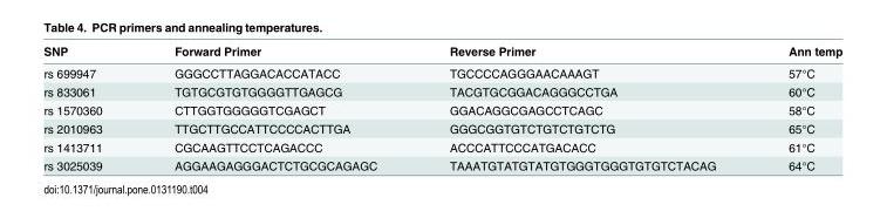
<table><thead><tr><td>SNP</td><td>Forward Primer</td><td>Reverse Primer</td><td>Ann temp</td></tr></thead><tbody><tr><td>rs 699947</td><td>GGGCCTTAGGACACCATACC</td><td>TGCCCCAGGGAACAAAGT</td><td>57°C</td></tr><tr><td>rs 833061</td><td>TGTGCGTGTGGGGTTGAGCG</td><td>TACGTGCGGACAGGGCCTGA</td><td>60°C</td></tr><tr><td>rs 1570360</td><td>CTTGGTGGGGGTCGAGCT</td><td>GGACAGGCGAGCCTCAGC</td><td>58°C</td></tr><tr><td>rs 2010963</td><td>TTGCTTGCCATTCCCCACTTGA</td><td>GGGCGGTGTCTGTCTGTCTG</td><td>65°C</td></tr><tr><td>rs 1413711</td><td>CGCAAGTTCCTCAGACCC</td><td>ACCCATTCCCATGACACC</td><td>61°C</td></tr><tr><td>rs 3025039</td><td>AGGAAGAGGGACTCTGCGCAGAGC</td><td>TAAATGTATGTATGTGGGTGGGTGTGTCTACAG</td><td>64°C</td></tr></tbody></table>